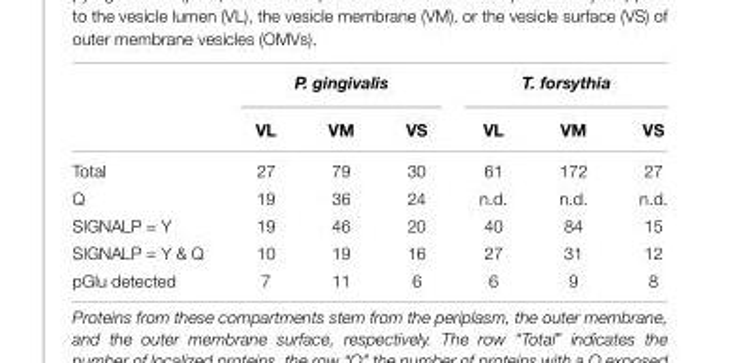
<table><thead><tr><td rowspan="2"></td><td colspan="3">P. gingivalis</td><td colspan="3">T. forsythia</td></tr><tr><td>VL</td><td>VM</td><td>VS</td><td>VL</td><td>VM</td><td>VS</td></tr></thead><tbody><tr><td>Total</td><td>27</td><td>79</td><td>30</td><td>61</td><td>172</td><td>27</td></tr><tr><td>Q</td><td>19</td><td>36</td><td>24</td><td>n.d.</td><td>n.d.</td><td>n.d.</td></tr><tr><td>SIGNALP = Y</td><td>19</td><td>46</td><td>20</td><td>40</td><td>84</td><td>15</td></tr><tr><td>SIGNALP = Y &amp; Q</td><td>10</td><td>19</td><td>16</td><td>27</td><td>31</td><td>12</td></tr><tr><td>pGlu detected</td><td>7</td><td>11</td><td>6</td><td>6</td><td>9</td><td>8</td></tr></tbody></table>